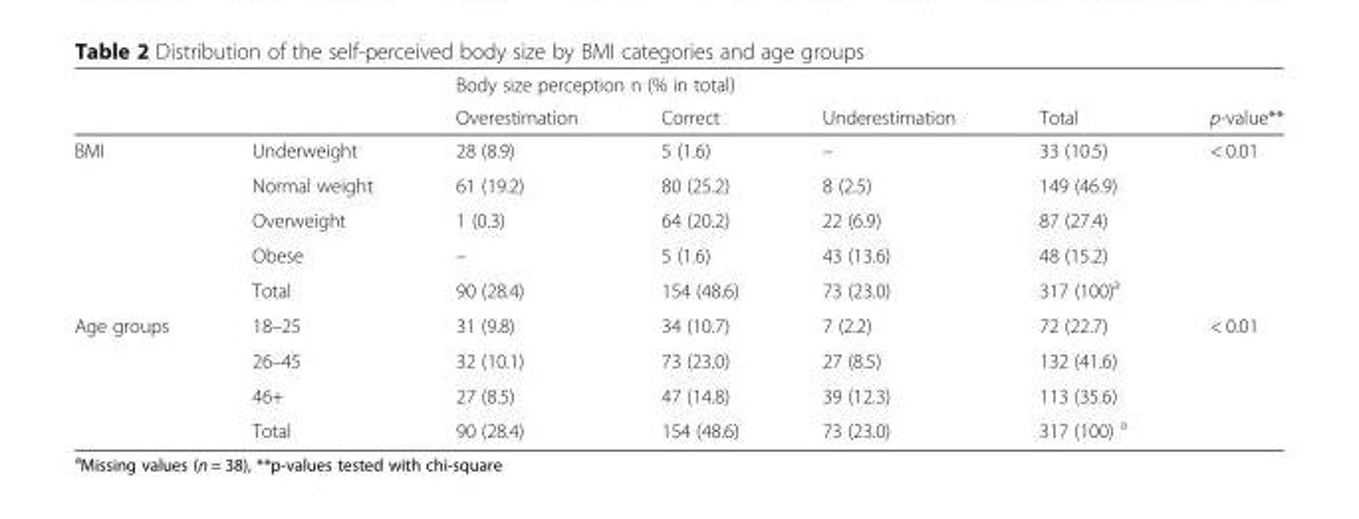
<table><thead><tr><td rowspan="2"></td><td rowspan="2"></td><td colspan="5">Body size perception n (% in total)</td></tr><tr><td>Overestimation</td><td>Correct</td><td>Underestimation</td><td>Total</td><td>p-value**</td></tr></thead><tbody><tr><td rowspan="5">BMI</td><td>Underweight</td><td>28 (8.9)</td><td>5 (1.6)</td><td>–</td><td>33 (10.5)</td><td rowspan="4">&lt; 0.01</td></tr><tr><td>Normal weight</td><td>61 (19.2)</td><td>80 (25.2)</td><td>8 (2.5)</td><td>149 (46.9)</td></tr><tr><td>Overweight</td><td>1 (0.3)</td><td>64 (20.2)</td><td>22 (6.9)</td><td>87 (27.4)</td></tr><tr><td>Obese</td><td>–</td><td>5 (1.6)</td><td>43 (13.6)</td><td>48 (15.2)</td></tr><tr><td>Total</td><td>90 (28.4)</td><td>154 (48.6)</td><td>73 (23.0)</td><td>317 (100)<sup>a</sup></td><td></td></tr><tr><td rowspan="4">Age groups</td><td>18–25</td><td>31 (9.8)</td><td>34 (10.7)</td><td>7 (2.2)</td><td>72 (22.7)</td><td rowspan="3">&lt; 0.01</td></tr><tr><td>26–45</td><td>32 (10.1)</td><td>73 (23.0)</td><td>27 (8.5)</td><td>132 (41.6)</td></tr><tr><td>46+</td><td>27 (8.5)</td><td>47 (14.8)</td><td>39 (12.3)</td><td>113 (35.6)</td></tr><tr><td>Total</td><td>90 (28.4)</td><td>154 (48.6)</td><td>73 (23.0)</td><td>317 (100) <sup>a</sup></td><td></td></tr></tbody></table>